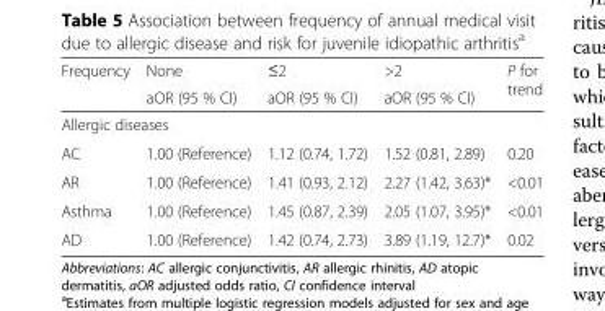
<table><thead><tr><td rowspan="2">Frequency</td><td rowspan="2">None aOR (95 % CI)</td><td rowspan="2">≤2 aOR (95 % CI)</td><td rowspan="2">&gt;2 aOR (95 % CI)</td><td rowspan="2">P for trend</td></tr><tr></tr></thead><tbody><tr><td colspan="5">Allergic diseases</td></tr><tr><td>AC</td><td>1.00 (Reference)</td><td>1.12 (0.74, 1.72)</td><td>1.52 (0.81, 2.89)</td><td>0.20</td></tr><tr><td>AR</td><td>1.00 (Reference)</td><td>1.41 (0.93, 2.12)</td><td>2.27 (1.42, 3.63)*</td><td>&lt;0.01</td></tr><tr><td>Asthma</td><td>1.00 (Reference)</td><td>1.45 (0.87, 2.39)</td><td>2.05 (1.07, 3.95)*</td><td>&lt;0.01</td></tr><tr><td>AD</td><td>1.00 (Reference)</td><td>1.42 (0.74, 2.73)</td><td>3.89 (1.19, 12.7)*</td><td>0.02</td></tr></tbody></table>